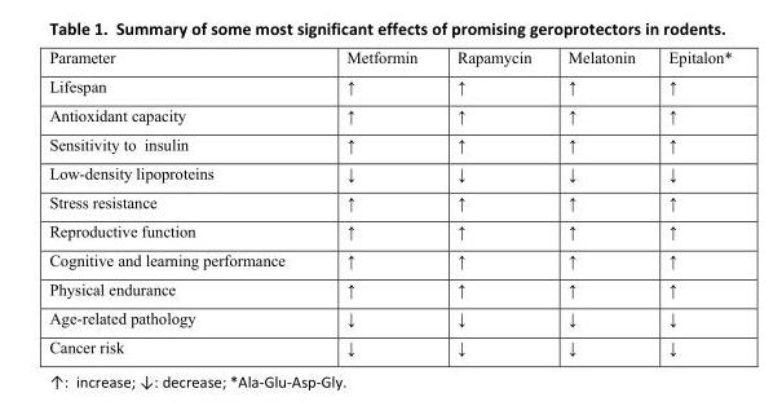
<table><tbody><tr><td>Parameter</td><td>Metformin</td><td>Rapamycin</td><td>Melatonin</td><td>Epitalon*</td></tr><tr><td>Lifespan</td><td>↑</td><td>↑</td><td>↑</td><td>↑</td></tr><tr><td>Antioxidant capacity</td><td>↑</td><td>↑</td><td>↑</td><td>↑</td></tr><tr><td>Sensitivity to insulin</td><td>↑</td><td>↑</td><td>↑</td><td>↑</td></tr><tr><td>Low-density lipoproteins</td><td>↓</td><td>↓</td><td>↓</td><td>↓</td></tr><tr><td>Stress resistance</td><td>↑</td><td>↑</td><td>↑</td><td>↑</td></tr><tr><td>Reproductive function</td><td>↑</td><td>↑</td><td>↑</td><td>↑</td></tr><tr><td>Cognitive and learning performance</td><td>↑</td><td>↑</td><td>↑</td><td>↑</td></tr><tr><td>Physical endurance</td><td>↑</td><td>↑</td><td>↑</td><td>↑</td></tr><tr><td>Age-related pathology</td><td>↓</td><td>↓</td><td>↓</td><td>↓</td></tr><tr><td>Cancer risk</td><td>↓</td><td>↓</td><td>↓</td><td>↓</td></tr></tbody></table>